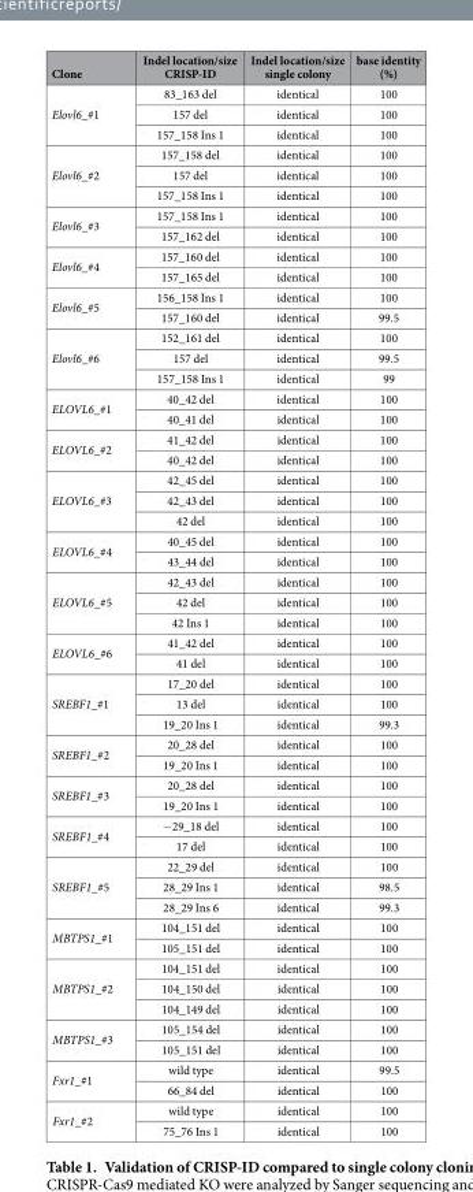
<table><thead><tr><td>Clone</td><td>Indel location/size CRISP-ID</td><td>Indel location/size single colony</td><td>base identity (%)</td></tr></thead><tbody><tr><td rowspan="3">Elovl6_#1</td><td>83_163 del</td><td>identical</td><td>100</td></tr><tr><td>157 del</td><td>identical</td><td>100</td></tr><tr><td>157_158 Ins 1</td><td>identical</td><td>100</td></tr><tr><td rowspan="3">Elovl6_#2</td><td>157_158 del</td><td>identical</td><td>100</td></tr><tr><td>157 del</td><td>identical</td><td>100</td></tr><tr><td>157_158 Ins 1</td><td>identical</td><td>100</td></tr><tr><td rowspan="2">Elovl6_#3</td><td>157_158 Ins 1</td><td>identical</td><td>100</td></tr><tr><td>157_162 del</td><td>identical</td><td>100</td></tr><tr><td rowspan="2">Elovl6_#4</td><td>157_160 del</td><td>identical</td><td>100</td></tr><tr><td>157_165 del</td><td>identical</td><td>100</td></tr><tr><td rowspan="2">Elovl6_#5</td><td>156_158 Ins 1</td><td>identical</td><td>100</td></tr><tr><td>157_160 del</td><td>identical</td><td>99.5</td></tr><tr><td rowspan="3">Elovl6_#6</td><td>152_161 del</td><td>identical</td><td>100</td></tr><tr><td>157 del</td><td>identical</td><td>99.5</td></tr><tr><td>157_158 Ins 1</td><td>identical</td><td>99</td></tr><tr><td rowspan="2">ELOVL6_#1</td><td>40_42 del</td><td>identical</td><td>100</td></tr><tr><td>40_41 del</td><td>identical</td><td>100</td></tr><tr><td rowspan="2">ELOVL6_#2</td><td>41_42 del</td><td>identical</td><td>100</td></tr><tr><td>40_42 del</td><td>identical</td><td>100</td></tr><tr><td rowspan="3">ELOVL6_#3</td><td>42_45 del</td><td>identical</td><td>100</td></tr><tr><td>42_43 del</td><td>identical</td><td>100</td></tr><tr><td>42 del</td><td>identical</td><td>100</td></tr><tr><td rowspan="2">ELOVL6_#4</td><td>40_45 del</td><td>identical</td><td>100</td></tr><tr><td>43_44 del</td><td>identical</td><td>100</td></tr><tr><td rowspan="3">ELOVL6_#5</td><td>42_43 del</td><td>identical</td><td>100</td></tr><tr><td>42 del</td><td>identical</td><td>100</td></tr><tr><td>42 Ins 1</td><td>identical</td><td>100</td></tr><tr><td rowspan="2">ELOVL6_#6</td><td>41_42 del</td><td>identical</td><td>100</td></tr><tr><td>41 del</td><td>identical</td><td>100</td></tr><tr><td rowspan="3">SREBF1_#1</td><td>17_20 del</td><td>identical</td><td>100</td></tr><tr><td>13 del</td><td>identical</td><td>100</td></tr><tr><td>19_20 Ins 1</td><td>identical</td><td>99.3</td></tr><tr><td rowspan="2">SREBF1_#2</td><td>20_28 del</td><td>identical</td><td>100</td></tr><tr><td>19_20 Ins 1</td><td>identical</td><td>100</td></tr><tr><td rowspan="2">SREBF1_#3</td><td>20_28 del</td><td>identical</td><td>100</td></tr><tr><td>19_20 Ins 1</td><td>identical</td><td>100</td></tr><tr><td rowspan="2">SREBF1_#4</td><td>− 29_18 del</td><td>identical</td><td>100</td></tr><tr><td>17 del</td><td>identical</td><td>100</td></tr><tr><td rowspan="3">SREBF1_#5</td><td>22_29 del</td><td>identical</td><td>100</td></tr><tr><td>28_29 Ins 1</td><td>identical</td><td>98.5</td></tr><tr><td>28_29 Ins 6</td><td>identical</td><td>99.3</td></tr><tr><td rowspan="2">MBTPS1_#1</td><td>104_151 del</td><td>identical</td><td>100</td></tr><tr><td>105_151 del</td><td>identical</td><td>100</td></tr><tr><td rowspan="3">MBTPS1_#2</td><td>104_151 del</td><td>identical</td><td>100</td></tr><tr><td>104_150 del</td><td>identical</td><td>100</td></tr><tr><td>104_149 del</td><td>identical</td><td>100</td></tr><tr><td rowspan="2">MBTPS1_#3</td><td>105_154 del</td><td>identical</td><td>100</td></tr><tr><td>105_151 del</td><td>identical</td><td>100</td></tr><tr><td rowspan="2">Fxr1_#1</td><td>wild type</td><td>identical</td><td>99.5</td></tr><tr><td>66_84 del</td><td>identical</td><td>100</td></tr><tr><td rowspan="2">Fxr1_#2</td><td>wild type</td><td>identical</td><td>100</td></tr><tr><td>75_76 Ins 1</td><td>identical</td><td>100</td></tr></tbody></table>